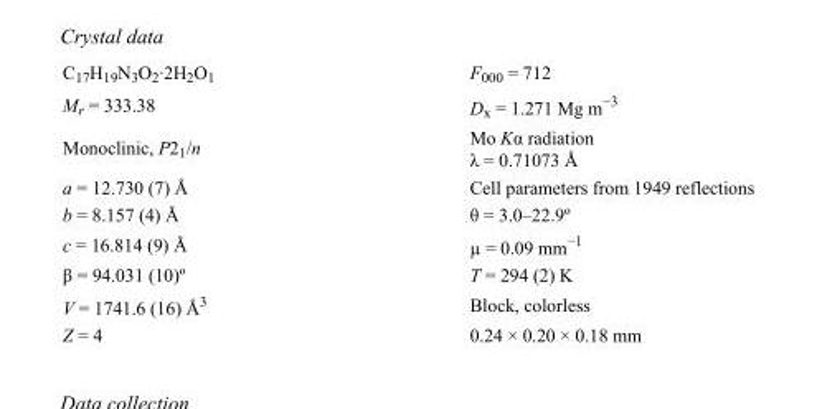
<table><tbody><tr><td>C<sub>17</sub>H<sub>19</sub>N<sub>3</sub>O<sub>2</sub>·2H<sub>2</sub>O<sub>1</sub></td><td>F<sub>000</sub> = 712</td></tr><tr><td>M<sub>r</sub> = 333.38</td><td>D<sub>x</sub> = 1.271 Mg m<sup>−3</sup></td></tr><tr><td>Monoclinic, P2<sub>1</sub>/n</td><td>Mo Kα radiation λ = 0.71073 Å</td></tr><tr><td>a = 12.730 (7) Å</td><td>Cell parameters from 1949 reflections</td></tr><tr><td>b = 8.157 (4) Å</td><td>θ = 3.0–22.9º</td></tr><tr><td>c = 16.814 (9) Å</td><td>µ = 0.09 mm<sup>−1</sup></td></tr><tr><td>β = 94.031 (10)º</td><td>T = 294 (2) K</td></tr><tr><td>V = 1741.6 (16) Å<sup>3</sup></td><td>Block, colorless</td></tr><tr><td>Z = 4</td><td>0.24 × 0.20 × 0.18 mm</td></tr></tbody></table>